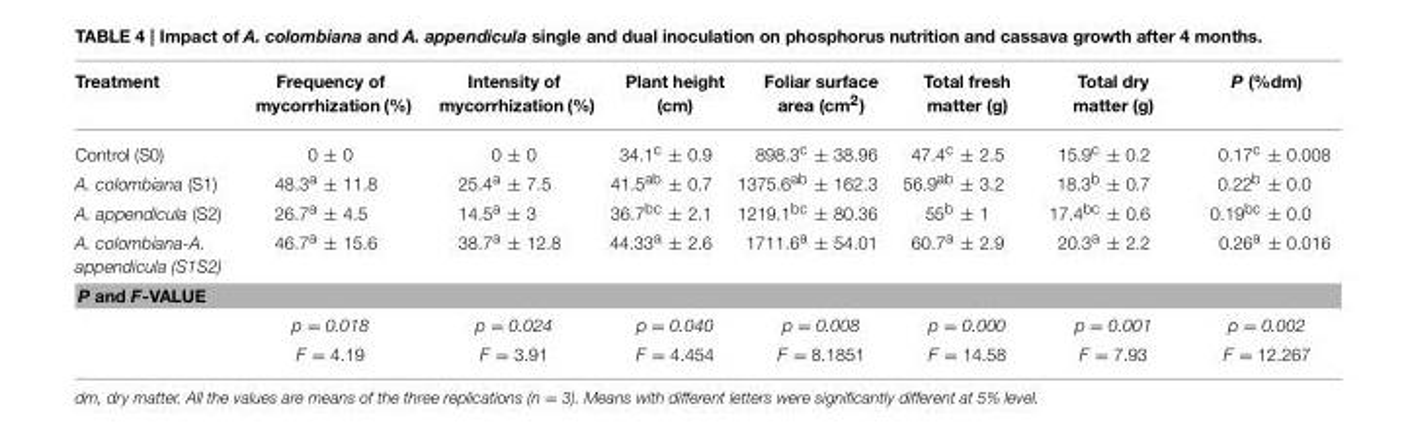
<table><thead><tr><td>Treatment</td><td>Frequency of mycorrhization (%)</td><td>Intensity of mycorrhization (%)</td><td>Plant height (cm)</td><td>Foliar surface area (cm<sup>2</sup>)</td><td>Total fresh matter (g)</td><td>Total dry matter (g)</td><td>P (%dm)</td></tr></thead><tbody><tr><td>Control (S0)</td><td>0 ± 0</td><td>0 ± 0</td><td>34.1<sup>c</sup> ± 0.9</td><td>898.3<sup>c</sup> ± 38.96</td><td>47.4<sup>c</sup> ± 2.5</td><td>15.9<sup>c</sup> ± 0.2</td><td>0.17<sup>c</sup> ± 0.008</td></tr><tr><td>A. colombiana (S1)</td><td>48.3<sup>a</sup> ± 11.8</td><td>25.4<sup>a</sup> ± 7.5</td><td>41.5<sup>ab</sup> ± 0.7</td><td>1375.6<sup>ab</sup> ± 162.3</td><td>56.9<sup>ab</sup> ± 3.2</td><td>18.3<sup>b</sup> ± 0.7</td><td>0.22<sup>b</sup> ± 0.0</td></tr><tr><td>A. appendicula (S2)</td><td>26.7<sup>a</sup> ± 4.5</td><td>14.5<sup>a</sup> ± 3</td><td>36.7<sup>bc</sup> ± 2.1</td><td>1219.1<sup>bc</sup> ± 80.36</td><td>55<sup>b</sup> ± 1</td><td>17.4<sup>bc</sup> ± 0.6</td><td>0.19<sup>bc</sup> ± 0.0</td></tr><tr><td>A. colombiana-A. appendicula (S1S2)</td><td>46.7<sup>a</sup> ± 15.6</td><td>38.7<sup>a</sup> ± 12.8</td><td>44.33<sup>a</sup> ± 2.6</td><td>1711.6<sup>a</sup> ± 54.01</td><td>60.7<sup>a</sup> ± 2.9</td><td>20.3<sup>a</sup> ± 2.2</td><td>0.26<sup>a</sup> ± 0.016</td></tr><tr><td colspan="8">P and F-VALUE</td></tr><tr><td></td><td>p = 0.018</td><td>p = 0.024</td><td>p = 0.040</td><td>p = 0.008</td><td>p = 0.000</td><td>p = 0.001</td><td>p = 0.002</td></tr><tr><td></td><td>F = 4.19</td><td>F = 3.91</td><td>F = 4.454</td><td>F = 8.1851</td><td>F = 14.58</td><td>F = 7.93</td><td>F = 12.267</td></tr></tbody></table>